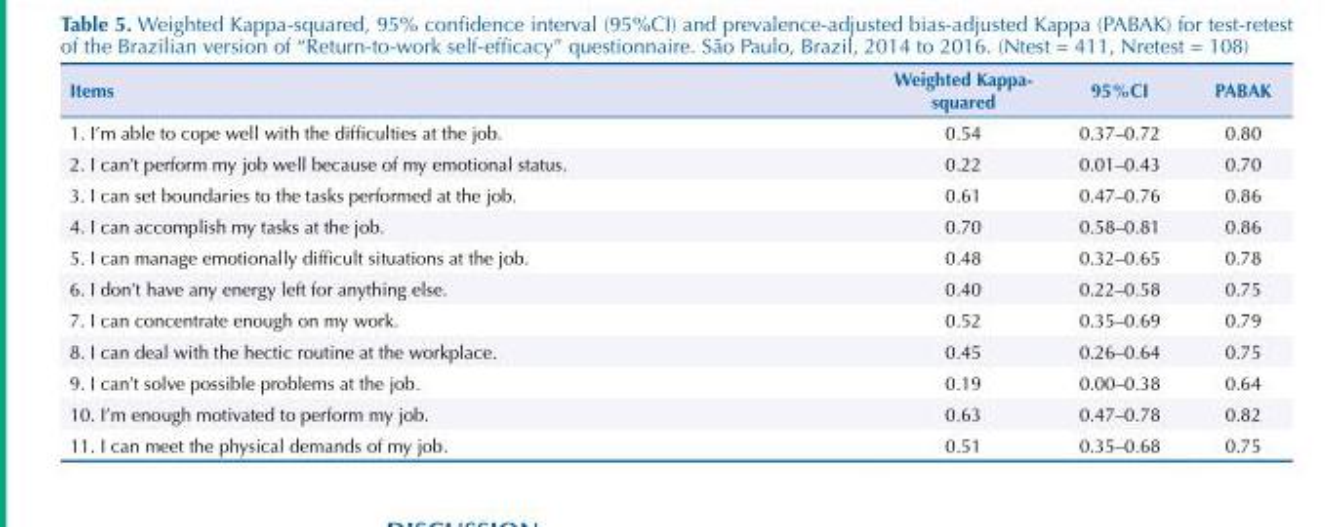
<table><thead><tr><td>Items</td><td>Weighted Kappa- squared</td><td>95%CI</td><td>PABAK</td></tr></thead><tbody><tr><td>1. I’m able to cope well with the difficulties at the job.</td><td>0.54</td><td>0.37–0.72</td><td>0.80</td></tr><tr><td>2. I can’t perform my job well because of my emotional status.</td><td>0.22</td><td>0.01–0.43</td><td>0.70</td></tr><tr><td>3. I can set boundaries to the tasks performed at the job.</td><td>0.61</td><td>0.47–0.76</td><td>0.86</td></tr><tr><td>4. I can accomplish my tasks at the job.</td><td>0.70</td><td>0.58–0.81</td><td>0.86</td></tr><tr><td>5. I can manage emotionally difficult situations at the job.</td><td>0.48</td><td>0.32–0.65</td><td>0.78</td></tr><tr><td>6. I don’t have any energy left for anything else.</td><td>0.40</td><td>0.22–0.58</td><td>0.75</td></tr><tr><td>7. I can concentrate enough on my work.</td><td>0.52</td><td>0.35–0.69</td><td>0.79</td></tr><tr><td>8. I can deal with the hectic routine at the workplace.</td><td>0.45</td><td>0.26–0.64</td><td>0.75</td></tr><tr><td>9. I can’t solve possible problems at the job.</td><td>0.19</td><td>0.00–0.38</td><td>0.64</td></tr><tr><td>10. I’m enough motivated to perform my job.</td><td>0.63</td><td>0.47–0.78</td><td>0.82</td></tr><tr><td>11. I can meet the physical demands of my job.</td><td>0.51</td><td>0.35–0.68</td><td>0.75</td></tr></tbody></table>